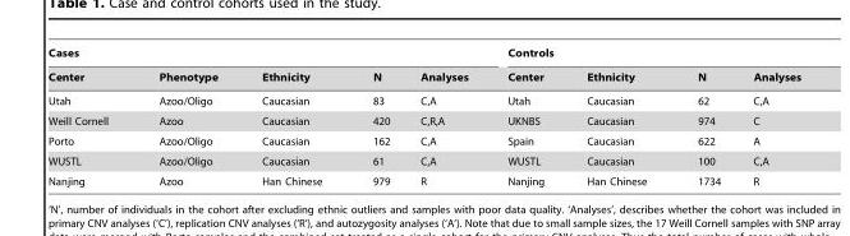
<table><thead><tr><td colspan="5">Cases</td><td colspan="4">Controls</td></tr><tr><td>Center</td><td>Phenotype</td><td>Ethnicity</td><td>N</td><td>Analyses</td><td>Center</td><td>Ethnicity</td><td>N</td><td>Analyses</td></tr></thead><tbody><tr><td>Utah</td><td>Azoo/Oligo</td><td>Caucasian</td><td>83</td><td>C,A</td><td>Utah</td><td>Caucasian</td><td>62</td><td>C,A</td></tr><tr><td>Weill Cornell</td><td>Azoo</td><td>Caucasian</td><td>420</td><td>C,R,A</td><td>UKNBS</td><td>Caucasian</td><td>974</td><td>C</td></tr><tr><td>Porto</td><td>Azoo/Oligo</td><td>Caucasian</td><td>162</td><td>C,A</td><td>Spain</td><td>Caucasian</td><td>622</td><td>A</td></tr><tr><td>WUSTL</td><td>Azoo/Oligo</td><td>Caucasian</td><td>61</td><td>C,A</td><td>WUSTL</td><td>Caucasian</td><td>100</td><td>C,A</td></tr><tr><td>Nanjing</td><td>Azoo</td><td>Han Chinese</td><td>979</td><td>R</td><td>Nanjing</td><td>Han Chinese</td><td>1734</td><td>R</td></tr></tbody></table>